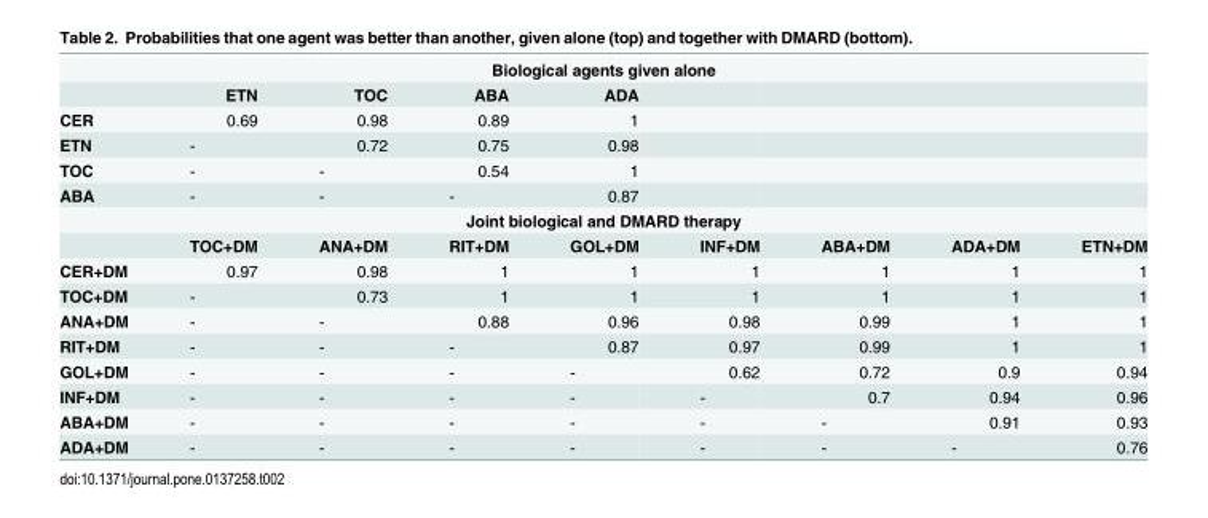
<table><tbody><tr><td colspan="9">Biological agents given alone</td></tr><tr><td></td><td>ETN</td><td>TOC</td><td>ABA</td><td>ADA</td><td></td><td></td><td></td><td></td></tr><tr><td>CER</td><td>0.69</td><td>0.98</td><td>0.89</td><td>1</td><td></td><td></td><td></td><td></td></tr><tr><td>ETN</td><td>-</td><td>0.72</td><td>0.75</td><td>0.98</td><td></td><td></td><td></td><td></td></tr><tr><td>TOC</td><td>-</td><td>-</td><td>0.54</td><td>1</td><td></td><td></td><td></td><td></td></tr><tr><td>ABA</td><td>-</td><td>-</td><td>-</td><td>0.87</td><td></td><td></td><td></td><td></td></tr><tr><td colspan="9">Joint biological and DMARD therapy</td></tr><tr><td></td><td>TOC+DM</td><td>ANA+DM</td><td>RIT+DM</td><td>GOL+DM</td><td>INF+DM</td><td>ABA+DM</td><td>ADA+DM</td><td>ETN+DM</td></tr><tr><td>CER+DM</td><td>0.97</td><td>0.98</td><td>1</td><td>1</td><td>1</td><td>1</td><td>1</td><td>1</td></tr><tr><td>TOC+DM</td><td>-</td><td>0.73</td><td>1</td><td>1</td><td>1</td><td>1</td><td>1</td><td>1</td></tr><tr><td>ANA+DM</td><td>-</td><td>-</td><td>0.88</td><td>0.96</td><td>0.98</td><td>0.99</td><td>1</td><td>1</td></tr><tr><td>RIT+DM</td><td>-</td><td>-</td><td>-</td><td>0.87</td><td>0.97</td><td>0.99</td><td>1</td><td>1</td></tr><tr><td>GOL+DM</td><td>-</td><td>-</td><td>-</td><td>-</td><td>0.62</td><td>0.72</td><td>0.9</td><td>0.94</td></tr><tr><td>INF+DM</td><td>-</td><td>-</td><td>-</td><td>-</td><td>-</td><td>0.7</td><td>0.94</td><td>0.96</td></tr><tr><td>ABA+DM</td><td>-</td><td>-</td><td>-</td><td>-</td><td>-</td><td>-</td><td>0.91</td><td>0.93</td></tr><tr><td>ADA+DM</td><td>-</td><td>-</td><td>-</td><td>-</td><td>-</td><td>-</td><td>-</td><td>0.76</td></tr></tbody></table>